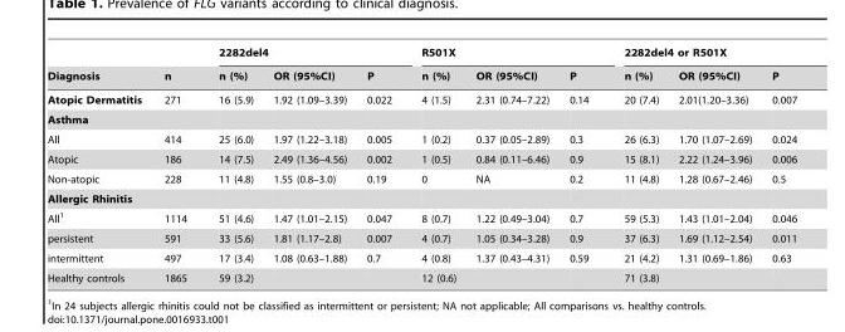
<table><thead><tr><td rowspan="2">Diagnosis</td><td rowspan="2">n</td><td colspan="3">2282del4</td><td colspan="3">R501X</td><td colspan="3">2282del4 or R501X</td></tr><tr><td>n (%)</td><td>OR (95%CI)</td><td>P</td><td>n (%)</td><td>OR (95%CI)</td><td>P</td><td>n (%)</td><td>OR (95%CI)</td><td>P</td></tr></thead><tbody><tr><td>Atopic Dermatitis</td><td>271</td><td>16 (5.9)</td><td>1.92 (1.09–3.39)</td><td>0.022</td><td>4 (1.5)</td><td>2.31 (0.74–7.22)</td><td>0.14</td><td>20 (7.4)</td><td>2.01(1.20–3.36)</td><td>0.007</td></tr><tr><td colspan="11">Asthma</td></tr><tr><td>All</td><td>414</td><td>25 (6.0)</td><td>1.97 (1.22–3.18)</td><td>0.005</td><td>1 (0.2)</td><td>0.37 (0.05–2.89)</td><td>0.3</td><td>26 (6.3)</td><td>1.70 (1.07–2.69)</td><td>0.024</td></tr><tr><td>Atopic</td><td>186</td><td>14 (7.5)</td><td>2.49 (1.36–4.56)</td><td>0.002</td><td>1 (0.5)</td><td>0.84 (0.11–6.46)</td><td>0.9</td><td>15 (8.1)</td><td>2.22 (1.24–3.96)</td><td>0.006</td></tr><tr><td>Non-atopic</td><td>228</td><td>11 (4.8)</td><td>1.55 (0.8–3.0)</td><td>0.19</td><td>0</td><td>NA</td><td>0.2</td><td>11 (4.8)</td><td>1.28 (0.67–2.46)</td><td>0.5</td></tr><tr><td colspan="11">Allergic Rhinitis</td></tr><tr><td>All<sup>1</sup></td><td>1114</td><td>51 (4.6)</td><td>1.47 (1.01–2.15)</td><td>0.047</td><td>8 (0.7)</td><td>1.22 (0.49–3.04)</td><td>0.7</td><td>59 (5.3)</td><td>1.43 (1.01–2.04)</td><td>0.046</td></tr><tr><td>persistent</td><td>591</td><td>33 (5.6)</td><td>1.81 (1.17–2.8)</td><td>0.007</td><td>4 (0.7)</td><td>1.05 (0.34–3.28)</td><td>0.9</td><td>37 (6.3)</td><td>1.69 (1.12–2.54)</td><td>0.011</td></tr><tr><td>intermittent</td><td>497</td><td>17 (3.4)</td><td>1.08 (0.63–1.88)</td><td>0.7</td><td>4 (0.8)</td><td>1.37 (0.43–4.31)</td><td>0.59</td><td>21 (4.2)</td><td>1.31 (0.69–1.86)</td><td>0.63</td></tr><tr><td>Healthy controls</td><td>1865</td><td>59 (3.2)</td><td></td><td></td><td>12 (0.6)</td><td></td><td></td><td>71 (3.8)</td><td></td><td></td></tr></tbody></table>